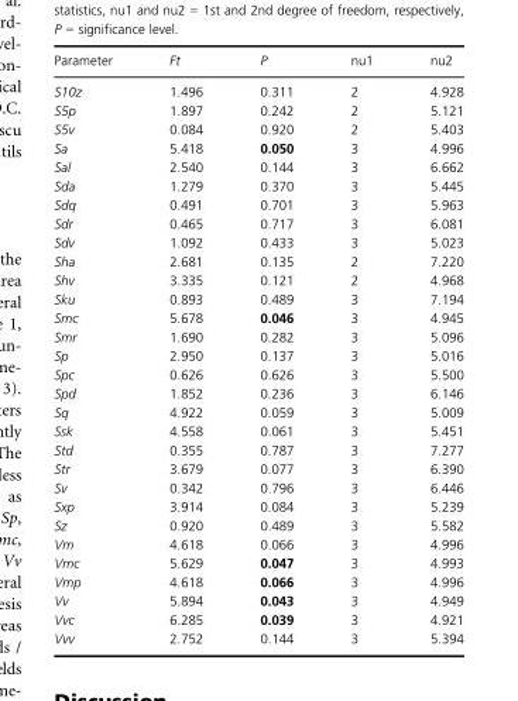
<table><thead><tr><td>Parameter</td><td>Ft</td><td>P</td><td>nu1</td><td>nu2</td></tr></thead><tbody><tr><td>S10z</td><td>1.496</td><td>0.311</td><td>2</td><td>4.928</td></tr><tr><td>S5p</td><td>1.897</td><td>0.242</td><td>2</td><td>5.121</td></tr><tr><td>S5v</td><td>0.084</td><td>0.920</td><td>2</td><td>5.403</td></tr><tr><td>Sa</td><td>5.418</td><td>0.050</td><td>3</td><td>4.996</td></tr><tr><td>Sal</td><td>2.540</td><td>0.144</td><td>3</td><td>6.662</td></tr><tr><td>Sda</td><td>1.279</td><td>0.370</td><td>3</td><td>5.445</td></tr><tr><td>Sdq</td><td>0.491</td><td>0.701</td><td>3</td><td>5.963</td></tr><tr><td>Sdr</td><td>0.465</td><td>0.717</td><td>3</td><td>6.081</td></tr><tr><td>Sdv</td><td>1.092</td><td>0.433</td><td>3</td><td>5.023</td></tr><tr><td>Sha</td><td>2.681</td><td>0.135</td><td>2</td><td>7.220</td></tr><tr><td>Shv</td><td>3.335</td><td>0.121</td><td>2</td><td>4.968</td></tr><tr><td>Sku</td><td>0.893</td><td>0.489</td><td>3</td><td>7.194</td></tr><tr><td>Smc</td><td>5.678</td><td>0.046</td><td>3</td><td>4.945</td></tr><tr><td>Smr</td><td>1.690</td><td>0.282</td><td>3</td><td>5.096</td></tr><tr><td>Sp</td><td>2.950</td><td>0.137</td><td>3</td><td>5.016</td></tr><tr><td>Spc</td><td>0.626</td><td>0.626</td><td>3</td><td>5.500</td></tr><tr><td>Spd</td><td>1.852</td><td>0.236</td><td>3</td><td>6.146</td></tr><tr><td>Sq</td><td>4.922</td><td>0.059</td><td>3</td><td>5.009</td></tr><tr><td>Ssk</td><td>4.558</td><td>0.061</td><td>3</td><td>5.451</td></tr><tr><td>Std</td><td>0.355</td><td>0.787</td><td>3</td><td>7.277</td></tr><tr><td>Str</td><td>3.679</td><td>0.077</td><td>3</td><td>6.390</td></tr><tr><td>Sv</td><td>0.342</td><td>0.796</td><td>3</td><td>6.446</td></tr><tr><td>Sxp</td><td>3.914</td><td>0.084</td><td>3</td><td>5.239</td></tr><tr><td>Sz</td><td>0.920</td><td>0.489</td><td>3</td><td>5.582</td></tr><tr><td>Vm</td><td>4.618</td><td>0.066</td><td>3</td><td>4.996</td></tr><tr><td>Vmc</td><td>5.629</td><td>0.047</td><td>3</td><td>4.993</td></tr><tr><td>Vmp</td><td>4.618</td><td>0.066</td><td>3</td><td>4.996</td></tr><tr><td>Vv</td><td>5.894</td><td>0.043</td><td>3</td><td>4.949</td></tr><tr><td>Vvc</td><td>6.285</td><td>0.039</td><td>3</td><td>4.921</td></tr><tr><td>Vvv</td><td>2.752</td><td>0.144</td><td>3</td><td>5.394</td></tr></tbody></table>